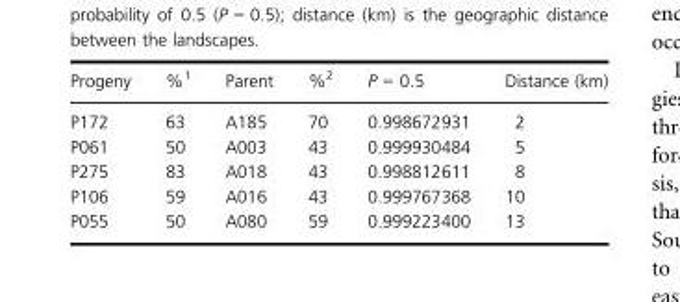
<table><thead><tr><td>Progeny</td><td>%<sup>1</sup></td><td>Parent</td><td>%<sup>2</sup></td><td>P = 0.5</td><td>Distance (km)</td></tr></thead><tbody><tr><td>P172</td><td>63</td><td>A185</td><td>70</td><td>0.998672931</td><td>2</td></tr><tr><td>P061</td><td>50</td><td>A003</td><td>43</td><td>0.999930484</td><td>5</td></tr><tr><td>P275</td><td>83</td><td>A018</td><td>43</td><td>0.998812611</td><td>8</td></tr><tr><td>P106</td><td>59</td><td>A016</td><td>43</td><td>0.999767368</td><td>10</td></tr><tr><td>P055</td><td>50</td><td>A080</td><td>59</td><td>0.999223400</td><td>13</td></tr></tbody></table>